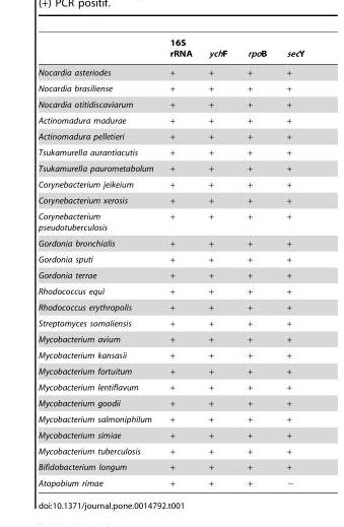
<table><thead><tr><td></td><td>16S rRNA</td><td>ychF</td><td>rpoB</td><td>secY</td></tr></thead><tbody><tr><td>Nocardia asteriodes</td><td>+</td><td>+</td><td>+</td><td>+</td></tr><tr><td>Nocardia brasiliense</td><td>+</td><td>+</td><td>+</td><td>+</td></tr><tr><td>Nocardia otitidiscaviarum</td><td>+</td><td>+</td><td>+</td><td>+</td></tr><tr><td>Actinomadura madurae</td><td>+</td><td>+</td><td>+</td><td>+</td></tr><tr><td>Actinomadura pelletieri</td><td>+</td><td>+</td><td>+</td><td>+</td></tr><tr><td>Tsukamurella aurantiacutis</td><td>+</td><td>+</td><td>+</td><td>+</td></tr><tr><td>Tsukamurella paurometabolum</td><td>+</td><td>+</td><td>+</td><td>+</td></tr><tr><td>Corynebacterium jeikeium</td><td>+</td><td>+</td><td>+</td><td>+</td></tr><tr><td>Corynebacterium xerosis</td><td>+</td><td>+</td><td>+</td><td>+</td></tr><tr><td>Corynebacterium pseudotuberculosis</td><td>+</td><td>+</td><td>+</td><td>+</td></tr><tr><td>Gordonia bronchialis</td><td>+</td><td>+</td><td>+</td><td>+</td></tr><tr><td>Gordonia sputi</td><td>+</td><td>+</td><td>+</td><td>+</td></tr><tr><td>Gordonia terrae</td><td>+</td><td>+</td><td>+</td><td>+</td></tr><tr><td>Rhodococcus equi</td><td>+</td><td>+</td><td>+</td><td>+</td></tr><tr><td>Rhodococcus erythropolis</td><td>+</td><td>+</td><td>+</td><td>+</td></tr><tr><td>Streptomyces somaliensis</td><td>+</td><td>+</td><td>+</td><td>+</td></tr><tr><td>Mycobacterium avium</td><td>+</td><td>+</td><td>+</td><td>+</td></tr><tr><td>Mycobacterium kansasii</td><td>+</td><td>+</td><td>+</td><td>+</td></tr><tr><td>Mycobacterium fortuitum</td><td>+</td><td>+</td><td>+</td><td>+</td></tr><tr><td>Mycobacterium lentiflavum</td><td>+</td><td>+</td><td>+</td><td>+</td></tr><tr><td>Mycobacterium goodii</td><td>+</td><td>+</td><td>+</td><td>+</td></tr><tr><td>Mycobacterium salmoniphilum</td><td>+</td><td>+</td><td>+</td><td>+</td></tr><tr><td>Mycobacterium simiae</td><td>+</td><td>+</td><td>+</td><td>+</td></tr><tr><td>Mycobacterium tuberculosis</td><td>+</td><td>+</td><td>+</td><td>+</td></tr><tr><td>Bifidobacterium longum</td><td>+</td><td>+</td><td>+</td><td>+</td></tr><tr><td>Atopobium rimae</td><td>+</td><td>+</td><td>+</td><td>−</td></tr></tbody></table>